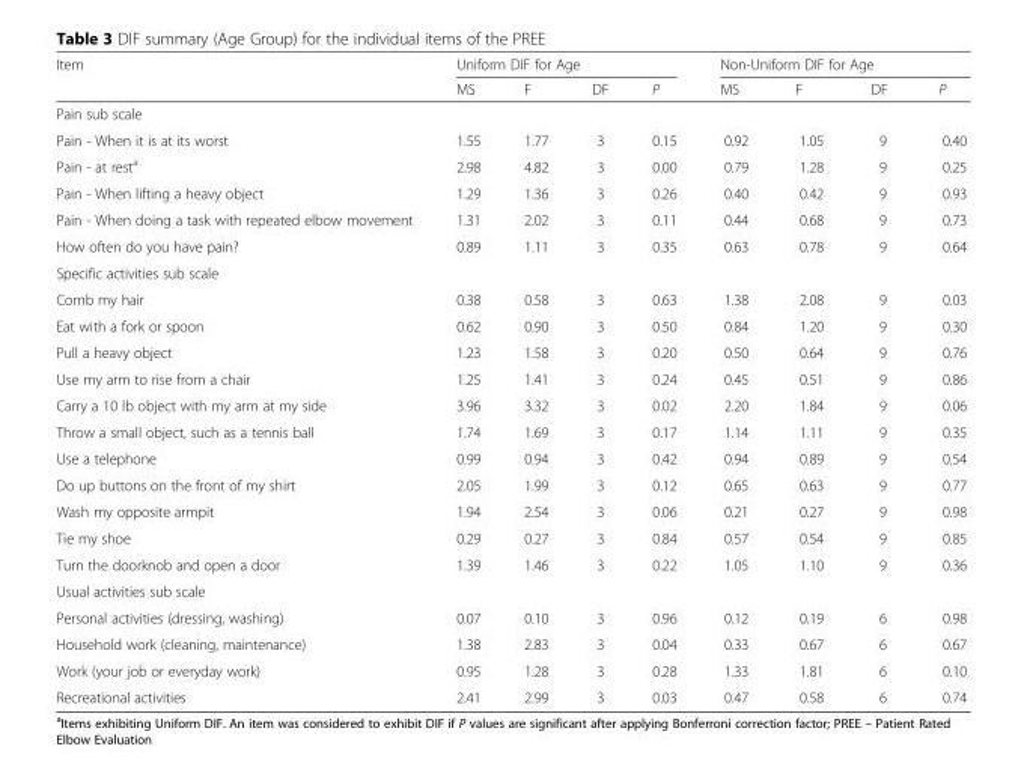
<table><thead><tr><td rowspan="2">Item</td><td colspan="4">Uniform DIF for Age</td><td colspan="4">Non-Uniform DIF for Age</td></tr><tr><td>MS</td><td>F</td><td>DF</td><td>P</td><td>MS</td><td>F</td><td>DF</td><td>P</td></tr></thead><tbody><tr><td colspan="9">Pain sub scale</td></tr><tr><td>Pain - When it is at its worst</td><td>1.55</td><td>1.77</td><td>3</td><td>0.15</td><td>0.92</td><td>1.05</td><td>9</td><td>0.40</td></tr><tr><td>Pain - at rest<sup>a</sup></td><td>2.98</td><td>4.82</td><td>3</td><td>0.00</td><td>0.79</td><td>1.28</td><td>9</td><td>0.25</td></tr><tr><td>Pain - When lifting a heavy object</td><td>1.29</td><td>1.36</td><td>3</td><td>0.26</td><td>0.40</td><td>0.42</td><td>9</td><td>0.93</td></tr><tr><td>Pain - When doing a task with repeated elbow movement</td><td>1.31</td><td>2.02</td><td>3</td><td>0.11</td><td>0.44</td><td>0.68</td><td>9</td><td>0.73</td></tr><tr><td>How often do you have pain?</td><td>0.89</td><td>1.11</td><td>3</td><td>0.35</td><td>0.63</td><td>0.78</td><td>9</td><td>0.64</td></tr><tr><td colspan="9">Specific activities sub scale</td></tr><tr><td>Comb my hair</td><td>0.38</td><td>0.58</td><td>3</td><td>0.63</td><td>1.38</td><td>2.08</td><td>9</td><td>0.03</td></tr><tr><td>Eat with a fork or spoon</td><td>0.62</td><td>0.90</td><td>3</td><td>0.50</td><td>0.84</td><td>1.20</td><td>9</td><td>0.30</td></tr><tr><td>Pull a heavy object</td><td>1.23</td><td>1.58</td><td>3</td><td>0.20</td><td>0.50</td><td>0.64</td><td>9</td><td>0.76</td></tr><tr><td>Use my arm to rise from a chair</td><td>1.25</td><td>1.41</td><td>3</td><td>0.24</td><td>0.45</td><td>0.51</td><td>9</td><td>0.86</td></tr><tr><td>Carry a 10 lb object with my arm at my side</td><td>3.96</td><td>3.32</td><td>3</td><td>0.02</td><td>2.20</td><td>1.84</td><td>9</td><td>0.06</td></tr><tr><td>Throw a small object, such as a tennis ball</td><td>1.74</td><td>1.69</td><td>3</td><td>0.17</td><td>1.14</td><td>1.11</td><td>9</td><td>0.35</td></tr><tr><td>Use a telephone</td><td>0.99</td><td>0.94</td><td>3</td><td>0.42</td><td>0.94</td><td>0.89</td><td>9</td><td>0.54</td></tr><tr><td>Do up buttons on the front of my shirt</td><td>2.05</td><td>1.99</td><td>3</td><td>0.12</td><td>0.65</td><td>0.63</td><td>9</td><td>0.77</td></tr><tr><td>Wash my opposite armpit</td><td>1.94</td><td>2.54</td><td>3</td><td>0.06</td><td>0.21</td><td>0.27</td><td>9</td><td>0.98</td></tr><tr><td>Tie my shoe</td><td>0.29</td><td>0.27</td><td>3</td><td>0.84</td><td>0.57</td><td>0.54</td><td>9</td><td>0.85</td></tr><tr><td>Turn the doorknob and open a door</td><td>1.39</td><td>1.46</td><td>3</td><td>0.22</td><td>1.05</td><td>1.10</td><td>9</td><td>0.36</td></tr><tr><td colspan="9">Usual activities sub scale</td></tr><tr><td>Personal activities (dressing, washing)</td><td>0.07</td><td>0.10</td><td>3</td><td>0.96</td><td>0.12</td><td>0.19</td><td>6</td><td>0.98</td></tr><tr><td>Household work (cleaning, maintenance)</td><td>1.38</td><td>2.83</td><td>3</td><td>0.04</td><td>0.33</td><td>0.67</td><td>6</td><td>0.67</td></tr><tr><td>Work (your job or everyday work)</td><td>0.95</td><td>1.28</td><td>3</td><td>0.28</td><td>1.33</td><td>1.81</td><td>6</td><td>0.10</td></tr><tr><td>Recreational activities</td><td>2.41</td><td>2.99</td><td>3</td><td>0.03</td><td>0.47</td><td>0.58</td><td>6</td><td>0.74</td></tr></tbody></table>